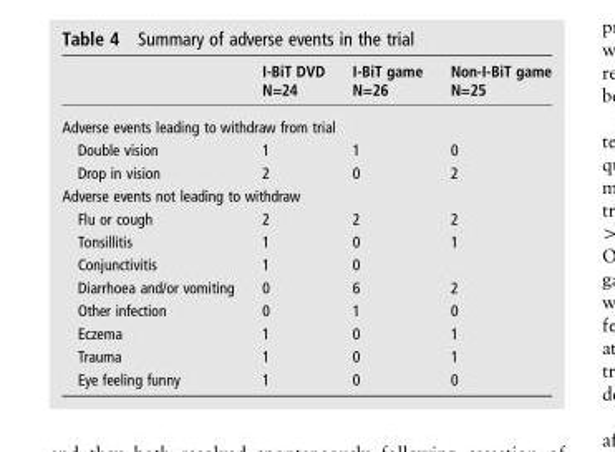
<table><thead><tr><td></td><td>I-BiT DVD N=24</td><td>I-BiT game N=26</td><td>Non-I-BiT game N=25</td></tr></thead><tbody><tr><td colspan="4">Adverse events leading to withdraw from trial</td></tr><tr><td>Double vision</td><td>1</td><td>1</td><td>0</td></tr><tr><td>Drop in vision</td><td>2</td><td>0</td><td>2</td></tr><tr><td colspan="4">Adverse events not leading to withdraw</td></tr><tr><td>Flu or cough</td><td>2</td><td>2</td><td>2</td></tr><tr><td>Tonsillitis</td><td>1</td><td>0</td><td>1</td></tr><tr><td>Conjunctivitis</td><td>1</td><td>0</td><td></td></tr><tr><td>Diarrhoea and/or vomiting</td><td>0</td><td>6</td><td>2</td></tr><tr><td>Other infection</td><td>0</td><td>1</td><td>0</td></tr><tr><td>Eczema</td><td>1</td><td>0</td><td>1</td></tr><tr><td>Trauma</td><td>1</td><td>0</td><td>1</td></tr><tr><td>Eye feeling funny</td><td>1</td><td>0</td><td>0</td></tr></tbody></table>